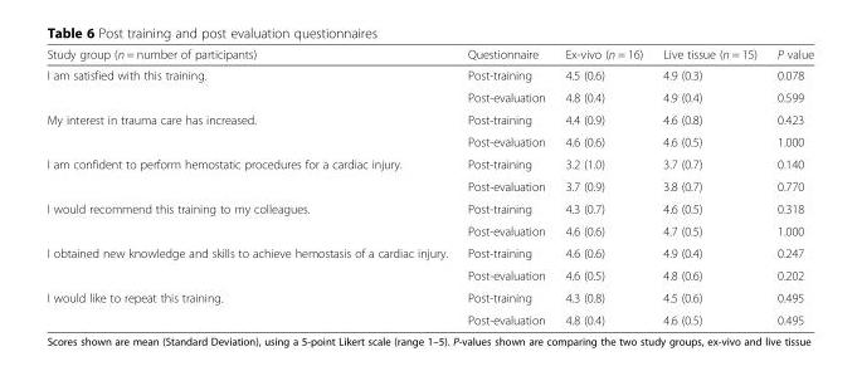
<table><thead><tr><td>Study group (n = number of participants)</td><td>Questionnaire</td><td>Ex-vivo (n = 16)</td><td>Live tissue (n = 15)</td><td>P value</td></tr></thead><tbody><tr><td rowspan="2">I am satisfied with this training.</td><td>Post-training</td><td>4.5 (0.6)</td><td>4.9 (0.3)</td><td>0.078</td></tr><tr><td>Post-evaluation</td><td>4.8 (0.4)</td><td>4.9 (0.4)</td><td>0.599</td></tr><tr><td rowspan="2">My interest in trauma care has increased.</td><td>Post-training</td><td>4.4 (0.9)</td><td>4.6 (0.8)</td><td>0.423</td></tr><tr><td>Post-evaluation</td><td>4.6 (0.6)</td><td>4.6 (0.5)</td><td>1.000</td></tr><tr><td rowspan="2">I am confident to perform hemostatic procedures for a cardiac injury.</td><td>Post-training</td><td>3.2 (1.0)</td><td>3.7 (0.7)</td><td>0.140</td></tr><tr><td>Post-evaluation</td><td>3.7 (0.9)</td><td>3.8 (0.7)</td><td>0.770</td></tr><tr><td rowspan="2">I would recommend this training to my colleagues.</td><td>Post-training</td><td>4.3 (0.7)</td><td>4.6 (0.5)</td><td>0.318</td></tr><tr><td>Post-evaluation</td><td>4.6 (0.6)</td><td>4.7 (0.5)</td><td>1.000</td></tr><tr><td rowspan="2">I obtained new knowledge and skills to achieve hemostasis of a cardiac injury.</td><td>Post-training</td><td>4.6 (0.6)</td><td>4.9 (0.4)</td><td>0.247</td></tr><tr><td>Post-evaluation</td><td>4.6 (0.5)</td><td>4.8 (0.6)</td><td>0.202</td></tr><tr><td rowspan="2">I would like to repeat this training.</td><td>Post-training</td><td>4.3 (0.8)</td><td>4.5 (0.6)</td><td>0.495</td></tr><tr><td>Post-evaluation</td><td>4.8 (0.4)</td><td>4.6 (0.5)</td><td>0.495</td></tr></tbody></table>